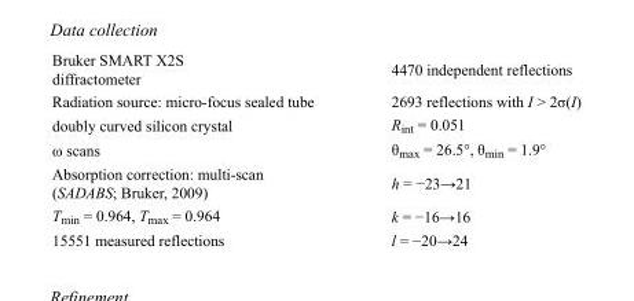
<table><tbody><tr><td>Bruker SMART X2S diffractometer</td><td>4470 independent reflections</td></tr><tr><td>Radiation source: micro-focus sealed tube</td><td>2693 reflections with I &gt; 2σ(I)</td></tr><tr><td>doubly curved silicon crystal</td><td>R<sub>int</sub> = 0.051</td></tr><tr><td>ω scans</td><td>θ<sub>max</sub> = 26.5°, θ<sub>min</sub> = 1.9°</td></tr><tr><td>Absorption correction: multi-scan (SADABS; Bruker, 2009)</td><td>h = −23→21</td></tr><tr><td>T<sub>min</sub> = 0.964, T<sub>max</sub> = 0.964</td><td>k = −16→16</td></tr><tr><td>15551 measured reflections</td><td>l = −20→24</td></tr></tbody></table>